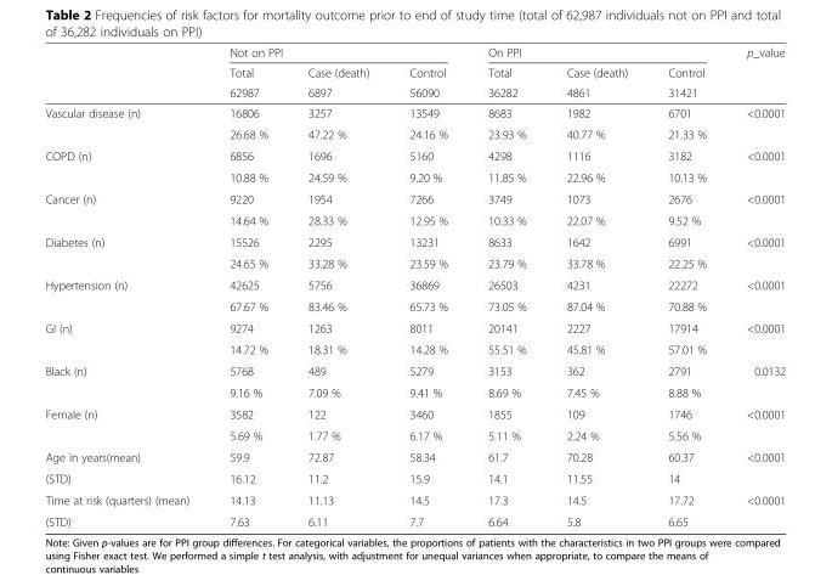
<table><thead><tr><td rowspan="3"></td><td colspan="3">Not on PPI</td><td colspan="3">On PPI</td><td rowspan="3">p_value</td></tr><tr><td rowspan="2">Total 62987</td><td rowspan="2">Case (death) 6897</td><td rowspan="2">Control 56090</td><td rowspan="2">Total 36282</td><td rowspan="2">Case (death) 4861</td><td rowspan="2">Control 31421</td></tr><tr></tr></thead><tbody><tr><td rowspan="2">Vascular disease (n)</td><td>16806</td><td>3257</td><td>13549</td><td>8683</td><td>1982</td><td>6701</td><td>&lt;0.0001</td></tr><tr><td>26.68 %</td><td>47.22 %</td><td>24.16 %</td><td>23.93 %</td><td>40.77 %</td><td>21.33 %</td><td></td></tr><tr><td rowspan="2">COPD (n)</td><td>6856</td><td>1696</td><td>5160</td><td>4298</td><td>1116</td><td>3182</td><td>&lt;0.0001</td></tr><tr><td>10.88 %</td><td>24.59 %</td><td>9.20 %</td><td>11.85 %</td><td>22.96 %</td><td>10.13 %</td><td></td></tr><tr><td rowspan="2">Cancer (n)</td><td>9220</td><td>1954</td><td>7266</td><td>3749</td><td>1073</td><td>2676</td><td>&lt;0.0001</td></tr><tr><td>14.64 %</td><td>28.33 %</td><td>12.95 %</td><td>10.33 %</td><td>22.07 %</td><td>9.52 %</td><td></td></tr><tr><td rowspan="2">Diabetes (n)</td><td>15526</td><td>2295</td><td>13231</td><td>8633</td><td>1642</td><td>6991</td><td>&lt;0.0001</td></tr><tr><td>24.65 %</td><td>33.28 %</td><td>23.59 %</td><td>23.79 %</td><td>33.78 %</td><td>22.25 %</td><td></td></tr><tr><td rowspan="2">Hypertension (n)</td><td>42625</td><td>5756</td><td>36869</td><td>26503</td><td>4231</td><td>22272</td><td>&lt;0.0001</td></tr><tr><td>67.67 %</td><td>83.46 %</td><td>65.73 %</td><td>73.05 %</td><td>87.04 %</td><td>70.88 %</td><td></td></tr><tr><td rowspan="2">GI (n)</td><td>9274</td><td>1263</td><td>8011</td><td>20141</td><td>2227</td><td>17914</td><td>&lt;0.0001</td></tr><tr><td>14.72 %</td><td>18.31 %</td><td>14.28 %</td><td>55.51 %</td><td>45.81 %</td><td>57.01 %</td><td></td></tr><tr><td rowspan="2">Black (n)</td><td>5768</td><td>489</td><td>5279</td><td>3153</td><td>362</td><td>2791</td><td>0.0132</td></tr><tr><td>9.16 %</td><td>7.09 %</td><td>9.41 %</td><td>8.69 %</td><td>7.45 %</td><td>8.88 %</td><td></td></tr><tr><td rowspan="2">Female (n)</td><td>3582</td><td>122</td><td>3460</td><td>1855</td><td>109</td><td>1746</td><td>&lt;0.0001</td></tr><tr><td>5.69 %</td><td>1.77 %</td><td>6.17 %</td><td>5.11 %</td><td>2.24 %</td><td>5.56 %</td><td></td></tr><tr><td>Age in years(mean)</td><td>59.9</td><td>72.87</td><td>58.34</td><td>61.7</td><td>70.28</td><td>60.37</td><td>&lt;0.0001</td></tr><tr><td>(STD)</td><td>16.12</td><td>11.2</td><td>15.9</td><td>14.1</td><td>11.55</td><td>14</td><td></td></tr><tr><td>Time at risk (quarters) (mean)</td><td>14.13</td><td>11.13</td><td>14.5</td><td>17.3</td><td>14.5</td><td>17.72</td><td>&lt;0.0001</td></tr><tr><td>(STD)</td><td>7.63</td><td>6.11</td><td>7.7</td><td>6.64</td><td>5.8</td><td>6.65</td><td></td></tr></tbody></table>